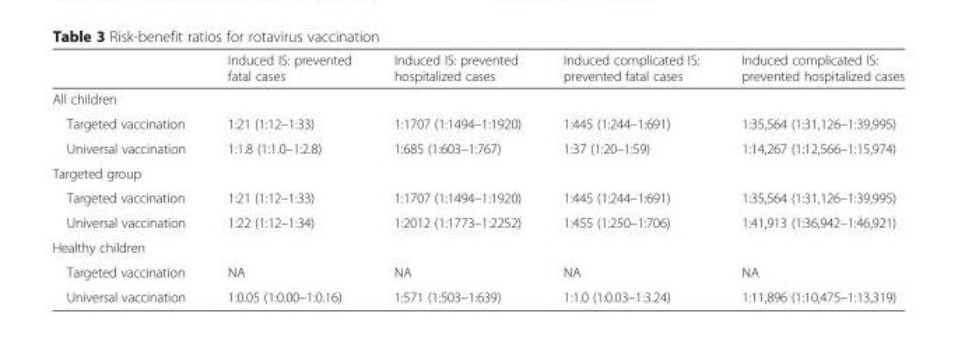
<table><thead><tr><td></td><td>Induced IS: prevented fatal cases</td><td>Induced IS: prevented hospitalized cases</td><td>Induced complicated IS: prevented fatal cases</td><td>Induced complicated IS: prevented hospitalized cases</td></tr></thead><tbody><tr><td colspan="5">All children</td></tr><tr><td>Targeted vaccination</td><td>1:21 (1:12–1:33)</td><td>1:1707 (1:1494–1:1920)</td><td>1:445 (1:244–1:691)</td><td>1:35,564 (1:31,126–1:39,995)</td></tr><tr><td>Universal vaccination</td><td>1:1.8 (1:1.0–1:2.8)</td><td>1:685 (1:603–1:767)</td><td>1:37 (1:20–1:59)</td><td>1:14,267 (1:12,566–1:15,974)</td></tr><tr><td colspan="5">Targeted group</td></tr><tr><td>Targeted vaccination</td><td>1:21 (1:12–1:33)</td><td>1:1707 (1:1494–1:1920)</td><td>1:445 (1:244–1:691)</td><td>1:35,564 (1:31,126–1:39,995)</td></tr><tr><td>Universal vaccination</td><td>1:22 (1:12–1:34)</td><td>1:2012 (1:1773–1:2252)</td><td>1:455 (1:250–1:706)</td><td>1:41,913 (1:36,942–1:46,921)</td></tr><tr><td colspan="5">Healthy children</td></tr><tr><td>Targeted vaccination</td><td>NA</td><td>NA</td><td>NA</td><td>NA</td></tr><tr><td>Universal vaccination</td><td>1:0.05 (1:0.00–1:0.16)</td><td>1:571 (1:503–1:639)</td><td>1:1.0 (1:0.03–1:3.24)</td><td>1:11,896 (1:10,475–1:13,319)</td></tr></tbody></table>